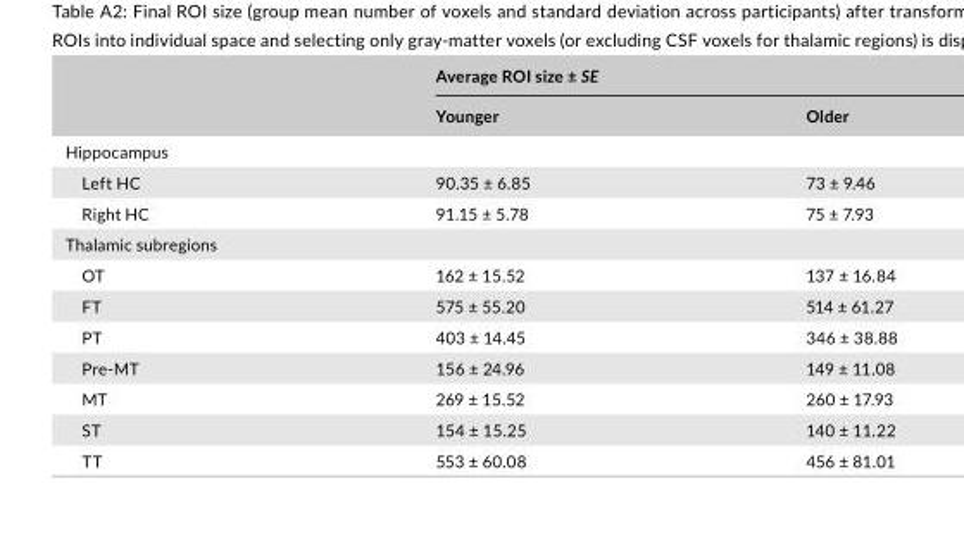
<table><thead><tr><td rowspan="2"></td><td colspan="2">Average ROI size ± SE</td></tr><tr><td>Younger</td><td>Older</td></tr></thead><tbody><tr><td colspan="3">Hippocampus</td></tr><tr><td>Left HC</td><td>90.35 ± 6.85</td><td>73 ± 9.46</td></tr><tr><td>Right HC</td><td>91.15 ± 5.78</td><td>75 ± 7.93</td></tr><tr><td colspan="3">Thalamic subregions</td></tr><tr><td>OT</td><td>162 ± 15.52</td><td>137 ± 16.84</td></tr><tr><td>FT</td><td>575 ± 55.20</td><td>514 ± 61.27</td></tr><tr><td>PT</td><td>403 ± 14.45</td><td>346 ± 38.88</td></tr><tr><td>Pre- MT</td><td>156 ± 24.96</td><td>149 ± 11.08</td></tr><tr><td>MT</td><td>269 ± 15.52</td><td>260 ± 17.93</td></tr><tr><td>ST</td><td>154 ± 15.25</td><td>140 ± 11.22</td></tr><tr><td>TT</td><td>553 ± 60.08</td><td>456 ± 81.01</td></tr></tbody></table>